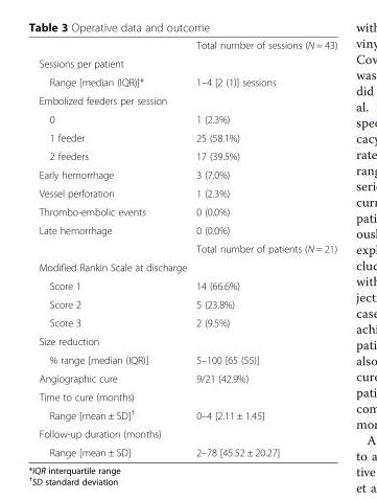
<table><thead><tr><td></td><td>Total number of sessions (N = 43)</td></tr></thead><tbody><tr><td colspan="2">Sessions per patient</td></tr><tr><td>Range [median (IQR)]*</td><td>1–4 [2 (1)] sessions</td></tr><tr><td colspan="2">Embolized feeders per session</td></tr><tr><td>0</td><td>1 (2.3%)</td></tr><tr><td>1 feeder</td><td>25 (58.1%)</td></tr><tr><td>2 feeders</td><td>17 (39.5%)</td></tr><tr><td>Early hemorrhage</td><td>3 (7.0%)</td></tr><tr><td>Vessel perforation</td><td>1 (2.3%)</td></tr><tr><td>Thrombo-embolic events</td><td>0 (0.0%)</td></tr><tr><td rowspan="2">Late hemorrhage</td><td>0 (0.0%)</td></tr><tr><td>Total number of patients (N = 21)</td></tr><tr><td colspan="2">Modified Rankin Scale at discharge</td></tr><tr><td>Score 1</td><td>14 (66.6%)</td></tr><tr><td>Score 2</td><td>5 (23.8%)</td></tr><tr><td>Score 3</td><td>2 (9.5%)</td></tr><tr><td colspan="2">Size reduction</td></tr><tr><td>% range [median (IQR)]</td><td>5–100 [65 (55)]</td></tr><tr><td>Angiographic cure</td><td>9/21 (42.9%)</td></tr><tr><td colspan="2">Time to cure (months)</td></tr><tr><td>Range [mean ± SD]<sup>†</sup></td><td>0–4 [2.11 ± 1.45]</td></tr><tr><td colspan="2">Follow-up duration (months)</td></tr><tr><td>Range [mean ± SD]</td><td>2–78 [45.52 ± 20.27]</td></tr></tbody></table>